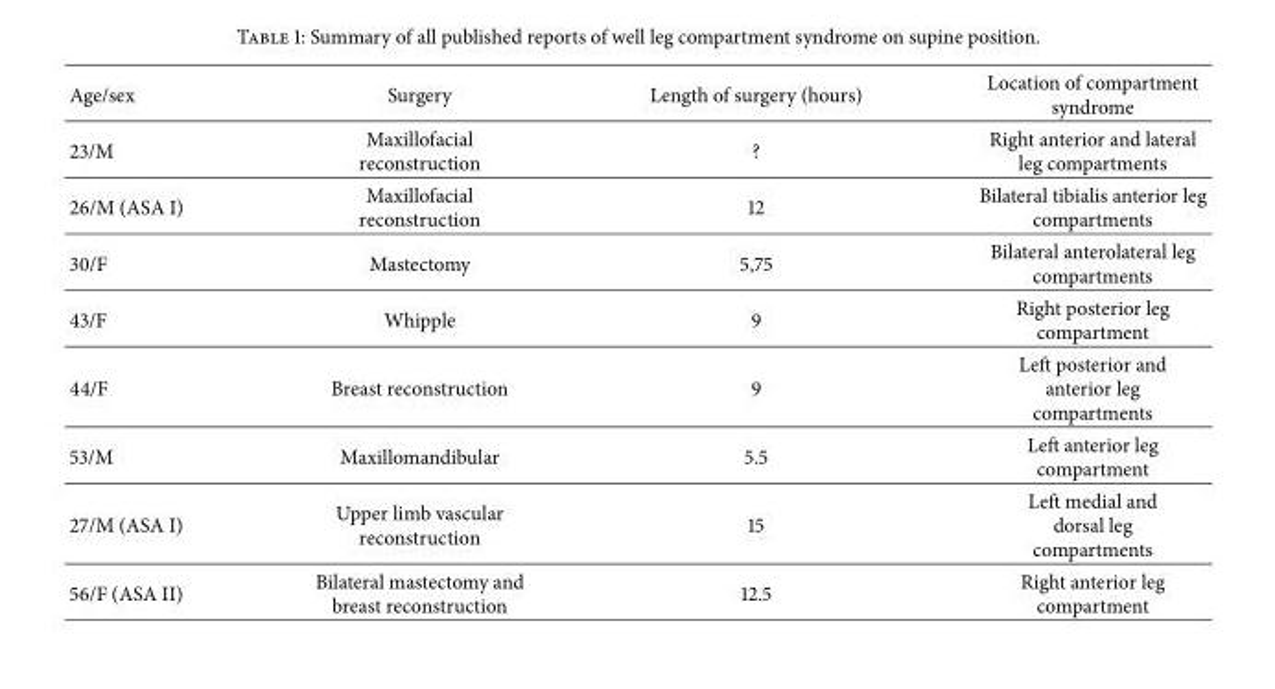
<table><thead><tr><td>Age/sex</td><td>Surgery</td><td>Length of surgery (hours)</td><td>Location of compartment syndrome</td></tr></thead><tbody><tr><td>23/M</td><td>Maxillofacial reconstruction</td><td>?</td><td>Right anterior and lateral leg compartments</td></tr><tr><td>26/M (ASA I)</td><td>Maxillofacial reconstruction</td><td>12</td><td>Bilateral tibialis anterior leg compartments</td></tr><tr><td>30/F</td><td>Mastectomy</td><td>5,75</td><td>Bilateral anterolateral leg compartments</td></tr><tr><td>43/F</td><td>Whipple</td><td>9</td><td>Right posterior leg compartment</td></tr><tr><td>44/F</td><td>Breast reconstruction</td><td>9</td><td>Left posterior and anterior leg compartments</td></tr><tr><td>53/M</td><td>Maxillomandibular</td><td>5.5</td><td>Left anterior leg compartment</td></tr><tr><td>27/M (ASA I)</td><td>Upper limb vascular reconstruction</td><td>15</td><td>Left medial and dorsal leg compartments</td></tr><tr><td>56/F (ASA II)</td><td>Bilateral mastectomy and breast reconstruction</td><td>12.5</td><td>Right anterior leg compartment</td></tr></tbody></table>